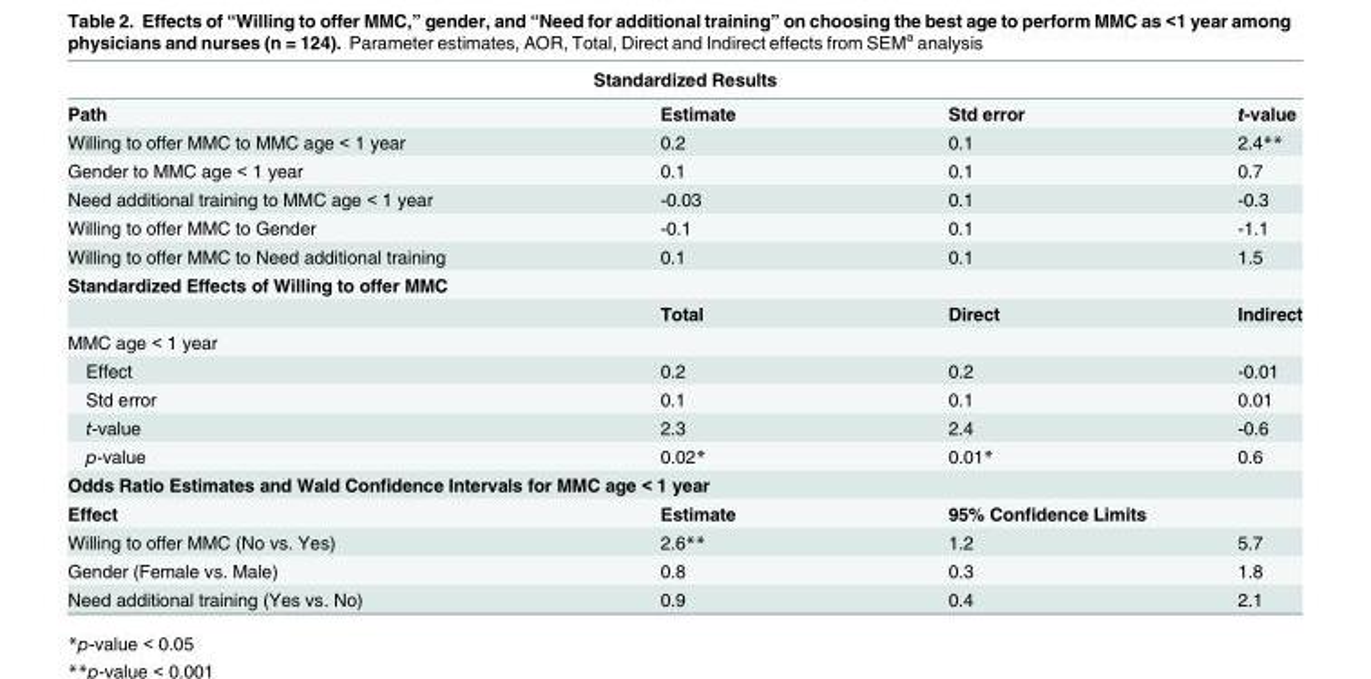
<table><thead><tr><td colspan="4">Standardized Results</td></tr><tr><td>Path</td><td>Estimate</td><td>Std error</td><td>t-value</td></tr></thead><tbody><tr><td>Willing to offer MMC to MMC age &lt; 1 year</td><td>0.2</td><td>0.1</td><td>2.4**</td></tr><tr><td>Gender to MMC age &lt; 1 year</td><td>0.1</td><td>0.1</td><td>0.7</td></tr><tr><td>Need additional training to MMC age &lt; 1 year</td><td>-0.03</td><td>0.1</td><td>-0.3</td></tr><tr><td>Willing to offer MMC to Gender</td><td>-0.1</td><td>0.1</td><td>-1.1</td></tr><tr><td>Willing to offer MMC to Need additional training</td><td>0.1</td><td>0.1</td><td>1.5</td></tr><tr><td colspan="4">Standardized Effects of Willing to offer MMC</td></tr><tr><td></td><td>Total</td><td>Direct</td><td>Indirect</td></tr><tr><td colspan="4">MMC age &lt; 1 year</td></tr><tr><td>Effect</td><td>0.2</td><td>0.2</td><td>-0.01</td></tr><tr><td>Std error</td><td>0.1</td><td>0.1</td><td>0.01</td></tr><tr><td>t-value</td><td>2.3</td><td>2.4</td><td>-0.6</td></tr><tr><td>p-value</td><td>0.02*</td><td>0.01*</td><td>0.6</td></tr><tr><td colspan="4">Odds Ratio Estimates and Wald Confidence Intervals for MMC age &lt; 1 year</td></tr><tr><td>Effect</td><td>Estimate</td><td colspan="2">95% Confidence Limits</td></tr><tr><td>Willing to offer MMC (No vs. Yes)</td><td>2.6**</td><td>1.2</td><td>5.7</td></tr><tr><td>Gender (Female vs. Male)</td><td>0.8</td><td>0.3</td><td>1.8</td></tr><tr><td>Need additional training (Yes vs. No)</td><td>0.9</td><td>0.4</td><td>2.1</td></tr></tbody></table>